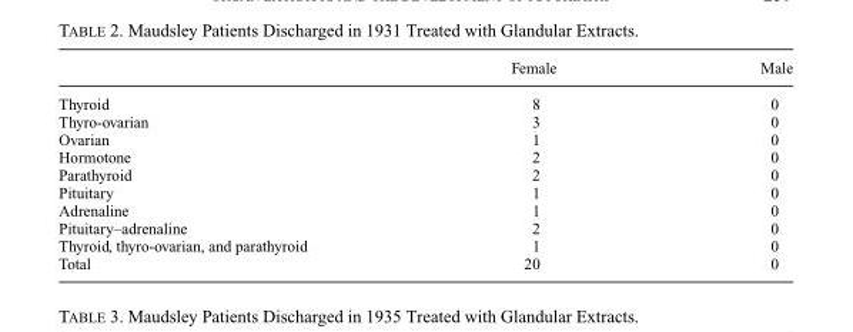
<table><thead><tr><td></td><td>Female</td><td>Male</td></tr></thead><tbody><tr><td>Thyroid</td><td>8</td><td>0</td></tr><tr><td>Thyro-ovarian</td><td>3</td><td>0</td></tr><tr><td>Ovarian</td><td>1</td><td>0</td></tr><tr><td>Hormotone</td><td>2</td><td>0</td></tr><tr><td>Parathyroid</td><td>2</td><td>0</td></tr><tr><td>Pituitary</td><td>1</td><td>0</td></tr><tr><td>Adrenaline</td><td>1</td><td>0</td></tr><tr><td>Pituitary–adrenaline</td><td>2</td><td>0</td></tr><tr><td>Thyroid, thyro-ovarian, and parathyroid</td><td>1</td><td>0</td></tr><tr><td>Total</td><td>20</td><td>0</td></tr></tbody></table>